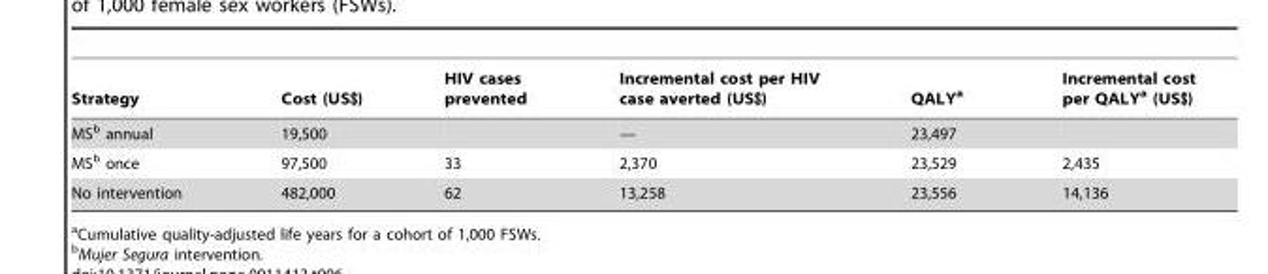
<table><thead><tr><td>Strategy</td><td>Cost (US$)</td><td>HIV cases prevented</td><td>Incremental cost per HIV case averted (US$)</td><td>QALY<sup>a</sup></td><td>Incremental cost per QALY<sup>a</sup> (US$)</td></tr></thead><tbody><tr><td>MS<sup>b</sup> annual</td><td>19,500</td><td></td><td>—</td><td>23,497</td><td></td></tr><tr><td>MS<sup>b</sup> once</td><td>97,500</td><td>33</td><td>2,370</td><td>23,529</td><td>2,435</td></tr><tr><td>No intervention</td><td>482,000</td><td>62</td><td>13,258</td><td>23,556</td><td>14,136</td></tr></tbody></table>